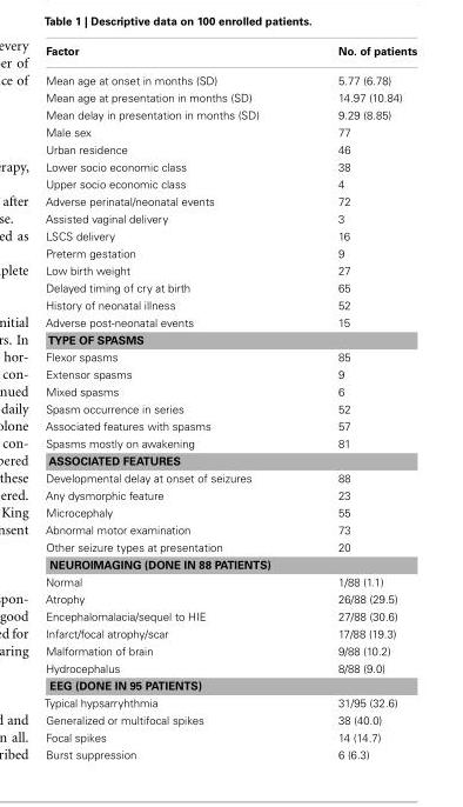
<table><thead><tr><td>Factor</td><td>No. of patients</td></tr></thead><tbody><tr><td>Mean age at onset in months (SD)</td><td>5.77 (6.78)</td></tr><tr><td>Mean age at presentation in months (SD)</td><td>14.97 (10.84)</td></tr><tr><td>Mean delay in presentation in months (SD)</td><td>9.29 (8.85)</td></tr><tr><td>Male sex</td><td>77</td></tr><tr><td>Urban residence</td><td>46</td></tr><tr><td>Lower socio economic class</td><td>38</td></tr><tr><td>Upper socio economic class</td><td>4</td></tr><tr><td>Adverse perinatal/neonatal events</td><td>72</td></tr><tr><td>Assisted vaginal delivery</td><td>3</td></tr><tr><td>LSCS delivery</td><td>16</td></tr><tr><td>Preterm gestation</td><td>9</td></tr><tr><td>Low birth weight</td><td>27</td></tr><tr><td>Delayed timing of cry at birth</td><td>65</td></tr><tr><td>History of neonatal illness</td><td>52</td></tr><tr><td>Adverse post-neonatal events</td><td>15</td></tr><tr><td colspan="2">TYPE OF SPASMS</td></tr><tr><td>Flexor spasms</td><td>85</td></tr><tr><td>Extensor spasms</td><td>9</td></tr><tr><td>Mixed spasms</td><td>6</td></tr><tr><td>Spasm occurrence in series</td><td>52</td></tr><tr><td>Associated features with spasms</td><td>57</td></tr><tr><td>Spasms mostly on awakening</td><td>81</td></tr><tr><td colspan="2">ASSOCIATED FEATURES</td></tr><tr><td>Developmental delay at onset of seizures</td><td>88</td></tr><tr><td>Any dysmorphic feature</td><td>23</td></tr><tr><td>Microcephaly</td><td>55</td></tr><tr><td>Abnormal motor examination</td><td>73</td></tr><tr><td>Other seizure types at presentation</td><td>20</td></tr><tr><td colspan="2">NEUROIMAGING (DONE IN 88 PATIENTS)</td></tr><tr><td>Normal</td><td>1/88 (1.1)</td></tr><tr><td>Atrophy</td><td>26/88 (29.5)</td></tr><tr><td>Encephalomalacia/sequel to HIE</td><td>27/88 (30.6)</td></tr><tr><td>Infarct/focal atrophy/scar</td><td>17/88 (19.3)</td></tr><tr><td>Malformation of brain</td><td>9/88 (10.2)</td></tr><tr><td>Hydrocephalus</td><td>8/88 (9.0)</td></tr><tr><td colspan="2">EEG (DONE IN 95 PATIENTS)</td></tr><tr><td>Typical hypsarryhthmia</td><td>31/95 (32.6)</td></tr><tr><td>Generalized or multifocal spikes</td><td>38 (40.0)</td></tr><tr><td>Focal spikes</td><td>14 (14.7)</td></tr><tr><td>Burst suppression</td><td>6 (6.3)</td></tr></tbody></table>